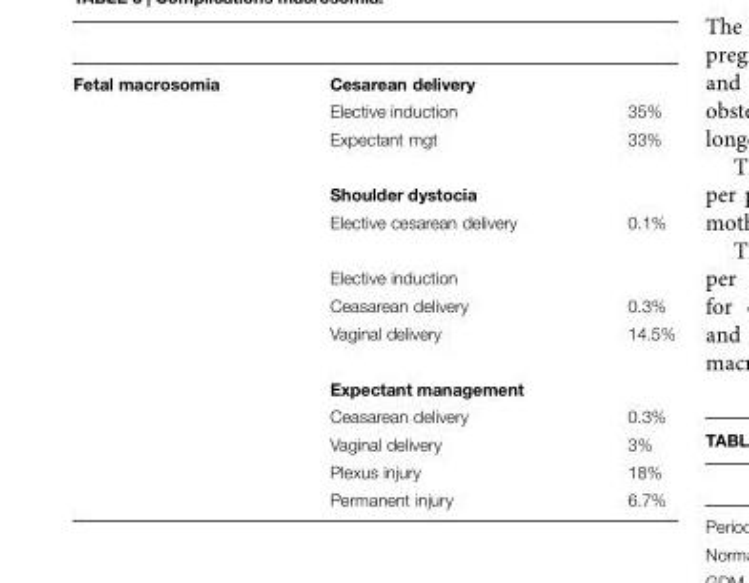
<table><tbody><tr><td rowspan="13">Fetal macrosomia</td><td colspan="2">Cesarean delivery</td></tr><tr><td>Elective induction</td><td>35%</td></tr><tr><td>Expectant mgt</td><td>33%</td></tr><tr><td colspan="2">Shoulder dystocia</td></tr><tr><td>Elective cesarean delivery</td><td>0.1%</td></tr><tr><td colspan="2">Elective induction</td></tr><tr><td>Ceasarean delivery</td><td>0.3%</td></tr><tr><td>Vaginal delivery</td><td>14.5%</td></tr><tr><td colspan="2">Expectant management</td></tr><tr><td>Ceasarean delivery</td><td>0.3%</td></tr><tr><td>Vaginal delivery</td><td>3%</td></tr><tr><td>Plexus injury</td><td>18%</td></tr><tr><td>Permanent injury</td><td>6.7%</td></tr></tbody></table>